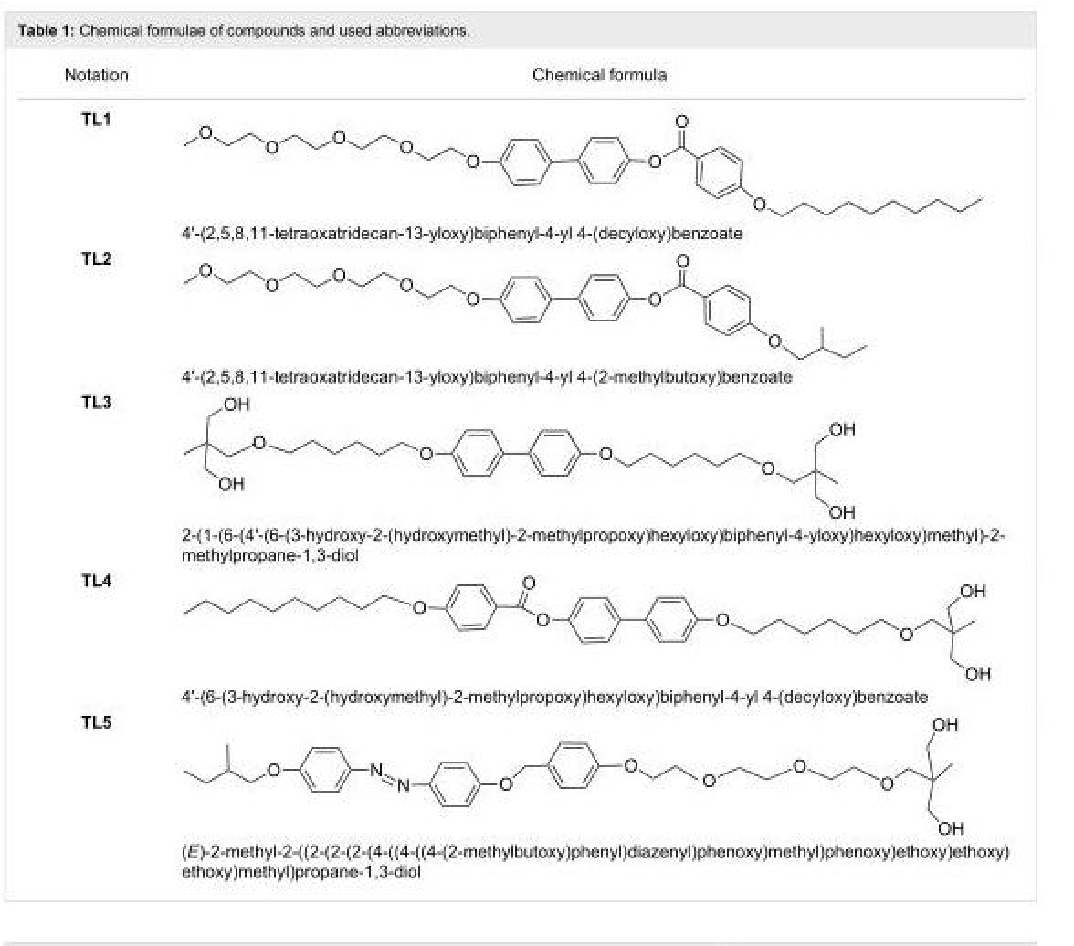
<table><tbody><tr><td>Notation</td><td>Chemical formula</td></tr><tr><td>TL1</td><td>4&#x27;-(2,5,8,11-tetraoxatridecan-13-yloxy)biphenyl-4-yl 4-(decyloxy)benzoate</td></tr><tr><td>TL2</td><td>4&#x27;-(2,5,8,11-tetraoxatridecan-13-yloxy)biphenyl-4-yl 4-(2-methylbutoxy)benzoate</td></tr><tr><td>TL3</td><td>2-(1-(6-(4&#x27;-(6-(3-hydroxy-2-(hydroxymethyl)-2-methylpropoxy)hexyloxy)biphenyl-4-yloxy)hexyloxy)methyl)-2- methylpropane-1,3-diol</td></tr><tr><td>TL4</td><td>4&#x27;-(6-(3-hydroxy-2-(hydroxymethyl)-2-methylpropoxy)hexyloxy)biphenyl-4-yl 4-(decyloxy)benzoate</td></tr><tr><td>TL5</td><td>(E)-2-methyl-2-((2-(2-(2-(4-((4-((4-(2-methylbutoxy)phenyl)diazenyl)phenoxy)methyl)phenoxy)ethoxy)ethoxy) ethoxy)methyl)propane-1,3-diol</td></tr></tbody></table>